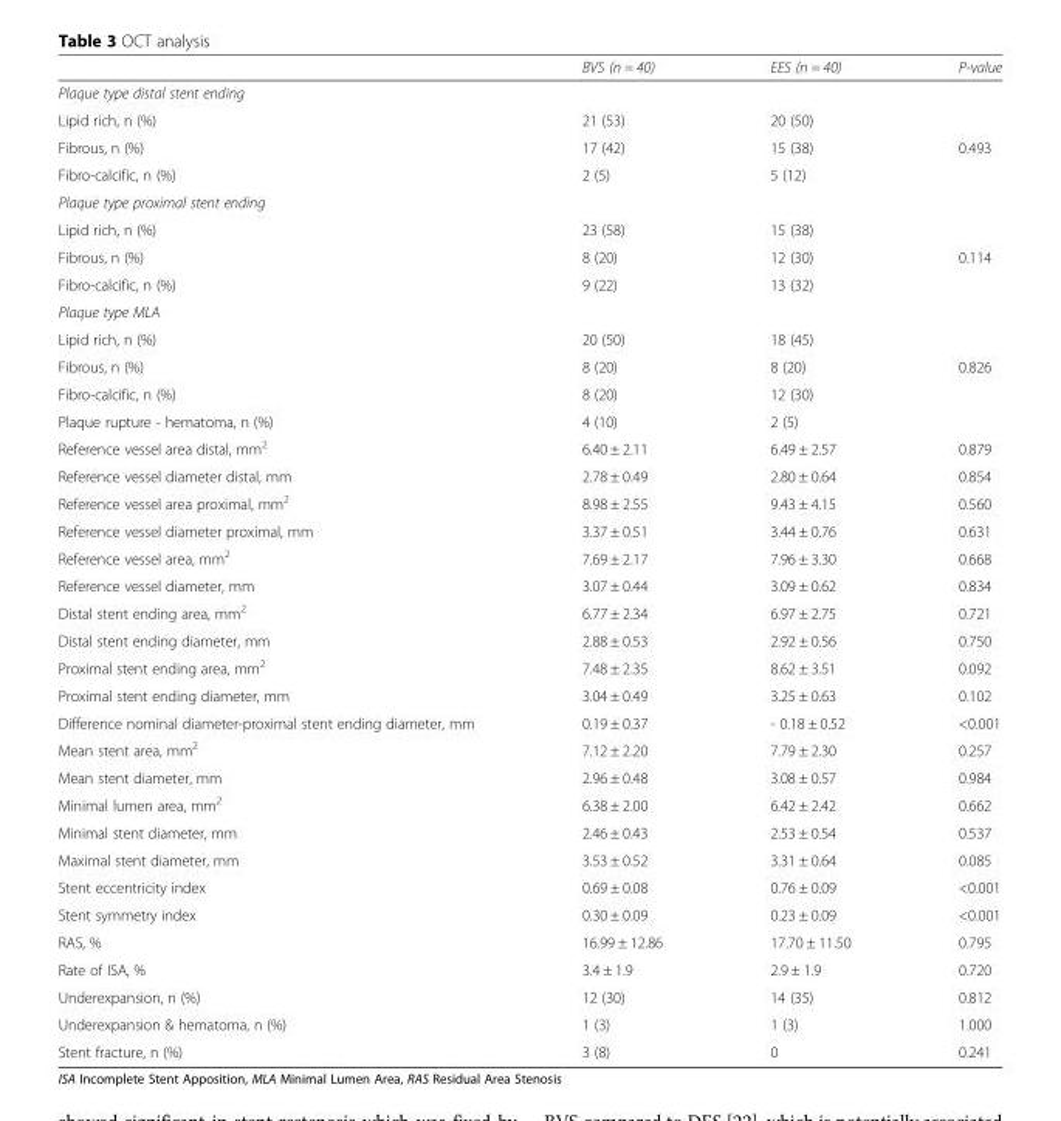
<table><thead><tr><td></td><td>BVS (n = 40)</td><td>EES (n = 40)</td><td>P-value</td></tr></thead><tbody><tr><td colspan="4">Plaque type distal stent ending</td></tr><tr><td>Lipid rich, n (%)</td><td>21 (53)</td><td>20 (50)</td><td></td></tr><tr><td>Fibrous, n (%)</td><td>17 (42)</td><td>15 (38)</td><td>0.493</td></tr><tr><td>Fibro-calcific, n (%)</td><td>2 (5)</td><td>5 (12)</td><td></td></tr><tr><td colspan="4">Plaque type proximal stent ending</td></tr><tr><td>Lipid rich, n (%)</td><td>23 (58)</td><td>15 (38)</td><td></td></tr><tr><td>Fibrous, n (%)</td><td>8 (20)</td><td>12 (30)</td><td>0.114</td></tr><tr><td>Fibro-calcific, n (%)</td><td>9 (22)</td><td>13 (32)</td><td></td></tr><tr><td colspan="4">Plaque type MLA</td></tr><tr><td>Lipid rich, n (%)</td><td>20 (50)</td><td>18 (45)</td><td></td></tr><tr><td>Fibrous, n (%)</td><td>8 (20)</td><td>8 (20)</td><td>0.826</td></tr><tr><td>Fibro-calcific, n (%)</td><td>8 (20)</td><td>12 (30)</td><td></td></tr><tr><td>Plaque rupture - hematoma, n (%)</td><td>4 (10)</td><td>2 (5)</td><td></td></tr><tr><td>Reference vessel area distal, mm<sup>2</sup></td><td>6.40 ± 2.11</td><td>6.49 ± 2.57</td><td>0.879</td></tr><tr><td>Reference vessel diameter distal, mm</td><td>2.78 ± 0.49</td><td>2.80 ± 0.64</td><td>0.854</td></tr><tr><td>Reference vessel area proximal, mm<sup>2</sup></td><td>8.98 ± 2.55</td><td>9.43 ± 4.15</td><td>0.560</td></tr><tr><td>Reference vessel diameter proximal, mm</td><td>3.37 ± 0.51</td><td>3.44 ± 0.76</td><td>0.631</td></tr><tr><td>Reference vessel area, mm<sup>2</sup></td><td>7.69 ± 2.17</td><td>7.96 ± 3.30</td><td>0.668</td></tr><tr><td>Reference vessel diameter, mm</td><td>3.07 ± 0.44</td><td>3.09 ± 0.62</td><td>0.834</td></tr><tr><td>Distal stent ending area, mm<sup>2</sup></td><td>6.77 ± 2.34</td><td>6.97 ± 2.75</td><td>0.721</td></tr><tr><td>Distal stent ending diameter, mm</td><td>2.88 ± 0.53</td><td>2.92 ± 0.56</td><td>0.750</td></tr><tr><td>Proximal stent ending area, mm<sup>2</sup></td><td>7.48 ± 2.35</td><td>8.62 ± 3.51</td><td>0.092</td></tr><tr><td>Proximal stent ending diameter, mm</td><td>3.04 ± 0.49</td><td>3.25 ± 0.63</td><td>0.102</td></tr><tr><td>Difference nominal diameter-proximal stent ending diameter, mm</td><td>0.19 ± 0.37</td><td>- 0.18 ± 0.52</td><td>&lt;0.001</td></tr><tr><td>Mean stent area, mm<sup>2</sup></td><td>7.12 ± 2.20</td><td>7.79 ± 2.30</td><td>0.257</td></tr><tr><td>Mean stent diameter, mm</td><td>2.96 ± 0.48</td><td>3.08 ± 0.57</td><td>0.984</td></tr><tr><td>Minimal lumen area, mm<sup>2</sup></td><td>6.38 ± 2.00</td><td>6.42 ± 2.42</td><td>0.662</td></tr><tr><td>Minimal stent diameter, mm</td><td>2.46 ± 0.43</td><td>2.53 ± 0.54</td><td>0.537</td></tr><tr><td>Maximal stent diameter, mm</td><td>3.53 ± 0.52</td><td>3.31 ± 0.64</td><td>0.085</td></tr><tr><td>Stent eccentricity index</td><td>0.69 ± 0.08</td><td>0.76 ± 0.09</td><td>&lt;0.001</td></tr><tr><td>Stent symmetry index</td><td>0.30 ± 0.09</td><td>0.23 ± 0.09</td><td>&lt;0.001</td></tr><tr><td>RAS, %</td><td>16.99 ± 12.86</td><td>17.70 ± 11.50</td><td>0.795</td></tr><tr><td>Rate of ISA, %</td><td>3.4 ± 1.9</td><td>2.9 ± 1.9</td><td>0.720</td></tr><tr><td>Underexpansion, n (%)</td><td>12 (30)</td><td>14 (35)</td><td>0.812</td></tr><tr><td>Underexpansion &amp; hematoma, n (%)</td><td>1 (3)</td><td>1 (3)</td><td>1.000</td></tr><tr><td>Stent fracture, n (%)</td><td>3 (8)</td><td>0</td><td>0.241</td></tr></tbody></table>